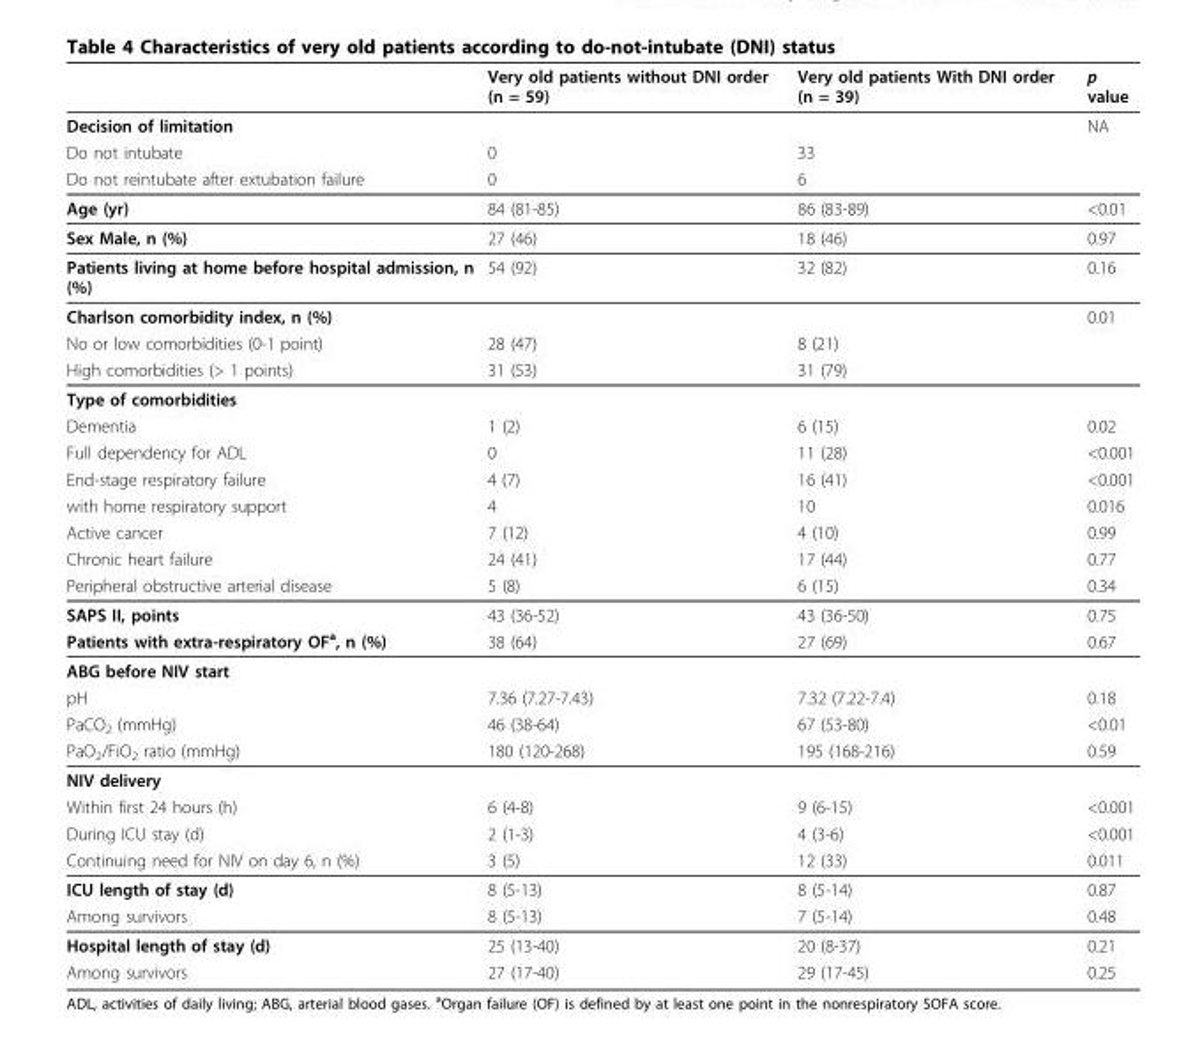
<table><thead><tr><td></td><td>Very old patients without DNI order (n = 59)</td><td>Very old patients With DNI order (n = 39)</td><td>p value</td></tr></thead><tbody><tr><td>Decision of limitation</td><td></td><td></td><td>NA</td></tr><tr><td>Do not intubate</td><td>0</td><td>33</td><td></td></tr><tr><td>Do not reintubate after extubation failure</td><td>0</td><td>6</td><td></td></tr><tr><td>Age (yr)</td><td>84 (81-85)</td><td>86 (83-89)</td><td>&lt;0.01</td></tr><tr><td>Sex Male, n (%)</td><td>27 (46)</td><td>18 (46)</td><td>0.97</td></tr><tr><td>Patients living at home before hospital admission, n (%)</td><td>54 (92)</td><td>32 (82)</td><td>0.16</td></tr><tr><td>Charlson comorbidity index, n (%)</td><td></td><td></td><td>0.01</td></tr><tr><td>No or low comorbidities (0-1 point)</td><td>28 (47)</td><td>8 (21)</td><td></td></tr><tr><td>High comorbidities (&gt; 1 points)</td><td>31 (53)</td><td>31 (79)</td><td></td></tr><tr><td colspan="4">Type of comorbidities</td></tr><tr><td>Dementia</td><td>1 (2)</td><td>6 (15)</td><td>0.02</td></tr><tr><td>Full dependency for ADL</td><td>0</td><td>11 (28)</td><td>&lt;0.001</td></tr><tr><td>End-stage respiratory failure</td><td>4 (7)</td><td>16 (41)</td><td>&lt;0.001</td></tr><tr><td>with home respiratory support</td><td>4</td><td>10</td><td>0.016</td></tr><tr><td>Active cancer</td><td>7 (12)</td><td>4 (10)</td><td>0.99</td></tr><tr><td>Chronic heart failure</td><td>24 (41)</td><td>17 (44)</td><td>0.77</td></tr><tr><td>Peripheral obstructive arterial disease</td><td>5 (8)</td><td>6 (15)</td><td>0.34</td></tr><tr><td>SAPS II, points</td><td>43 (36-52)</td><td>43 (36-50)</td><td>0.75</td></tr><tr><td>Patients with extra-respiratory OF<sup>a</sup>, n (%)</td><td>38 (64)</td><td>27 (69)</td><td>0.67</td></tr><tr><td colspan="4">ABG before NIV start</td></tr><tr><td>pH</td><td>7.36 (7.27-7.43)</td><td>7.32 (7.22-7.4)</td><td>0.18</td></tr><tr><td>PaCO<sub>2</sub> (mmHg)</td><td>46 (38-64)</td><td>67 (53-80)</td><td>&lt;0.01</td></tr><tr><td>PaO<sub>2</sub>/FiO<sub>2</sub> ratio (mmHg)</td><td>180 (120-268)</td><td>195 (168-216)</td><td>0.59</td></tr><tr><td colspan="4">NIV delivery</td></tr><tr><td>Within first 24 hours (h)</td><td>6 (4-8)</td><td>9 (6-15)</td><td>&lt;0.001</td></tr><tr><td>During ICU stay (d)</td><td>2 (1-3)</td><td>4 (3-6)</td><td>&lt;0.001</td></tr><tr><td>Continuing need for NIV on day 6, n (%)</td><td>3 (5)</td><td>12 (33)</td><td>0.011</td></tr><tr><td>ICU length of stay (d)</td><td>8 (5-13)</td><td>8 (5-14)</td><td>0.87</td></tr><tr><td>Among survivors</td><td>8 (5-13)</td><td>7 (5-14)</td><td>0.48</td></tr><tr><td>Hospital length of stay (d)</td><td>25 (13-40)</td><td>20 (8-37)</td><td>0.21</td></tr><tr><td>Among survivors</td><td>27 (17-40)</td><td>29 (17-45)</td><td>0.25</td></tr></tbody></table>